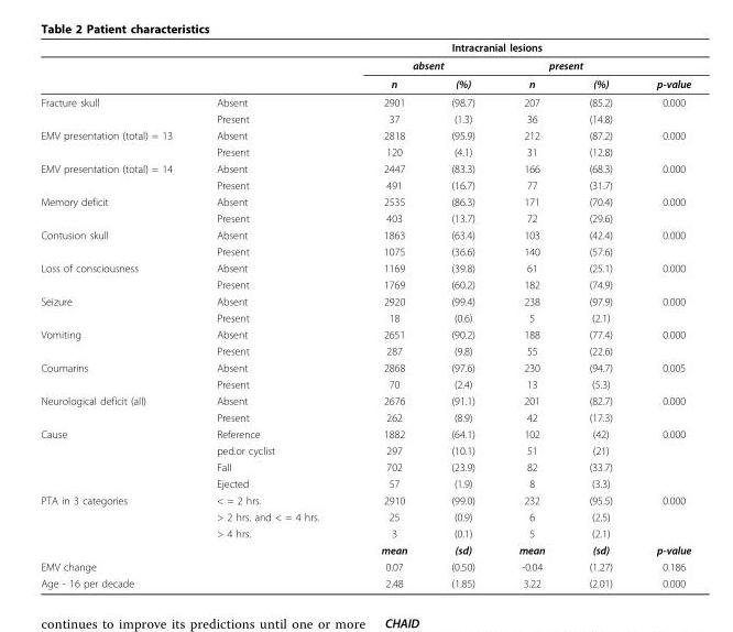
<table><thead><tr><td rowspan="3"></td><td rowspan="3"></td><td colspan="4">Intracranial lesions</td><td rowspan="3">p-value</td></tr><tr><td colspan="2">absent</td><td colspan="2">present</td></tr><tr><td>n</td><td>(%)</td><td>n</td><td>(%)</td></tr></thead><tbody><tr><td rowspan="2">Fracture skull</td><td>Absent</td><td>2901</td><td>(98.7)</td><td>207</td><td>(85.2)</td><td>0.000</td></tr><tr><td>Present</td><td>37</td><td>(1.3)</td><td>36</td><td>(14.8)</td><td></td></tr><tr><td rowspan="2">EMV presentation (total) = 13</td><td>Absent</td><td>2818</td><td>(95.9)</td><td>212</td><td>(87.2)</td><td>0.000</td></tr><tr><td>Present</td><td>120</td><td>(4.1)</td><td>31</td><td>(12.8)</td><td></td></tr><tr><td rowspan="2">EMV presentation (total) = 14</td><td>Absent</td><td>2447</td><td>(83.3)</td><td>166</td><td>(68.3)</td><td>0.000</td></tr><tr><td>Present</td><td>491</td><td>(16.7)</td><td>77</td><td>(31.7)</td><td></td></tr><tr><td rowspan="2">Memory deficit</td><td>Absent</td><td>2535</td><td>(86.3)</td><td>171</td><td>(70.4)</td><td>0.000</td></tr><tr><td>Present</td><td>403</td><td>(13.7)</td><td>72</td><td>(29.6)</td><td></td></tr><tr><td rowspan="2">Contusion skull</td><td>Absent</td><td>1863</td><td>(63.4)</td><td>103</td><td>(42.4)</td><td>0.000</td></tr><tr><td>Present</td><td>1075</td><td>(36.6)</td><td>140</td><td>(57.6)</td><td></td></tr><tr><td rowspan="2">Loss of consciousness</td><td>Absent</td><td>1169</td><td>(39.8)</td><td>61</td><td>(25.1)</td><td>0.000</td></tr><tr><td>Present</td><td>1769</td><td>(60.2)</td><td>182</td><td>(74.9)</td><td></td></tr><tr><td rowspan="2">Seizure</td><td>Absent</td><td>2920</td><td>(99.4)</td><td>238</td><td>(97.9)</td><td>0.000</td></tr><tr><td>Present</td><td>18</td><td>(0.6)</td><td>5</td><td>(2.1)</td><td></td></tr><tr><td rowspan="2">Vomiting</td><td>Absent</td><td>2651</td><td>(90.2)</td><td>188</td><td>(77.4)</td><td>0.000</td></tr><tr><td>Present</td><td>287</td><td>(9.8)</td><td>55</td><td>(22.6)</td><td></td></tr><tr><td rowspan="2">Coumarins</td><td>Absent</td><td>2868</td><td>(97.6)</td><td>230</td><td>(94.7)</td><td>0.005</td></tr><tr><td>Present</td><td>70</td><td>(2.4)</td><td>13</td><td>(5.3)</td><td></td></tr><tr><td rowspan="2">Neurological deficit (all)</td><td>Absent</td><td>2676</td><td>(91.1)</td><td>201</td><td>(82.7)</td><td>0.000</td></tr><tr><td>Present</td><td>262</td><td>(8.9)</td><td>42</td><td>(17.3)</td><td></td></tr><tr><td rowspan="4">Cause</td><td>Reference</td><td>1882</td><td>(64.1)</td><td>102</td><td>(42)</td><td>0.000</td></tr><tr><td>ped.or cyclist</td><td>297</td><td>(10.1)</td><td>51</td><td>(21)</td><td></td></tr><tr><td>Fall</td><td>702</td><td>(23.9)</td><td>82</td><td>(33.7)</td><td></td></tr><tr><td>Ejected</td><td>57</td><td>(1.9)</td><td>8</td><td>(3.3)</td><td></td></tr><tr><td rowspan="4">PTA in 3 categories</td><td>&lt; = 2 hrs.</td><td>2910</td><td>(99.0)</td><td>232</td><td>(95.5)</td><td>0.000</td></tr><tr><td>&gt; 2 hrs. and &lt; = 4 hrs.</td><td>25</td><td>(0.9)</td><td>6</td><td>(2.5)</td><td></td></tr><tr><td>&gt; 4 hrs.</td><td>3</td><td>(0.1)</td><td>5</td><td>(2.1)</td><td></td></tr><tr><td></td><td>mean</td><td>(sd)</td><td>mean</td><td>(sd)</td><td>p-value</td></tr><tr><td>EMV change</td><td></td><td>0.07</td><td>(0.50)</td><td>-0.04</td><td>(1.27)</td><td>0.186</td></tr><tr><td>Age - 16 per decade</td><td></td><td>2.48</td><td>(1.85)</td><td>3.22</td><td>(2.01)</td><td>0.000</td></tr></tbody></table>